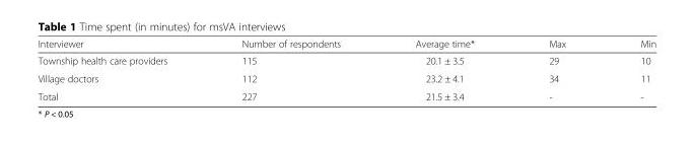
<table><thead><tr><td>Interviewer</td><td>Number of respondents</td><td>Average time*</td><td>Max</td><td>Min</td></tr></thead><tbody><tr><td>Township health care providers</td><td>115</td><td>20.1 ± 3.5</td><td>29</td><td>10</td></tr><tr><td>Village doctors</td><td>112</td><td>23.2 ± 4.1</td><td>34</td><td>11</td></tr><tr><td>Total</td><td>227</td><td>21.5 ± 3.4</td><td>-</td><td>-</td></tr></tbody></table>